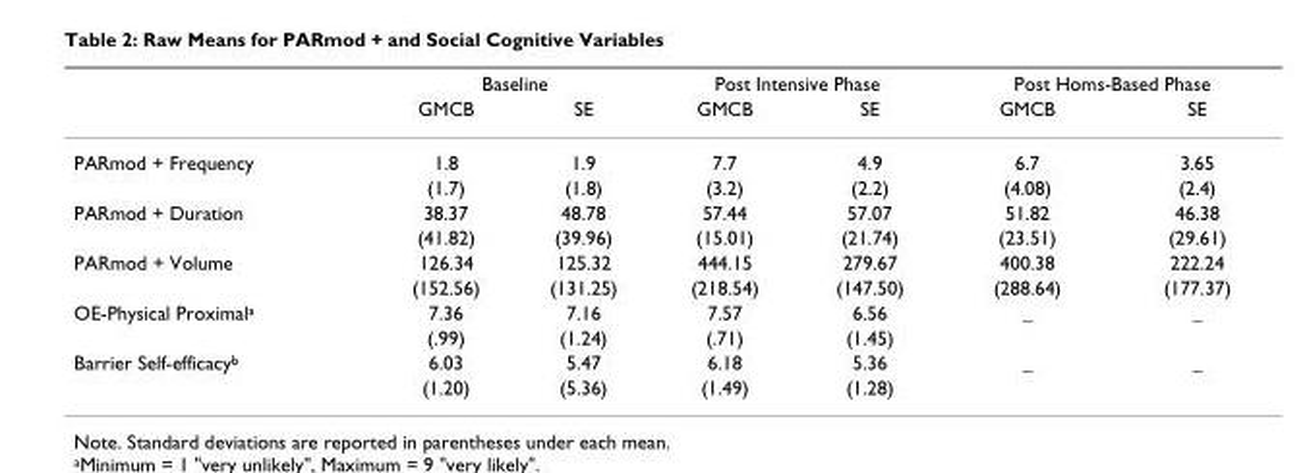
<table><thead><tr><td rowspan="2"></td><td colspan="2">Baseline</td><td colspan="2">Post Intensive Phase</td><td colspan="2">Post Homs-Based Phase</td></tr><tr><td>GMCB</td><td>SE</td><td>GMCB</td><td>SE</td><td>GMCB</td><td>SE</td></tr></thead><tbody><tr><td rowspan="2">PARmod + Frequency</td><td>1.8</td><td>1.9</td><td>7.7</td><td>4.9</td><td>6.7</td><td>3.65</td></tr><tr><td>(1.7)</td><td>(1.8)</td><td>(3.2)</td><td>(2.2)</td><td>(4.08)</td><td>(2.4)</td></tr><tr><td rowspan="2">PARmod + Duration</td><td>38.37</td><td>48.78</td><td>57.44</td><td>57.07</td><td>51.82</td><td>46.38</td></tr><tr><td>(41.82)</td><td>(39.96)</td><td>(15.01)</td><td>(21.74)</td><td>(23.51)</td><td>(29.61)</td></tr><tr><td rowspan="2">PARmod + Volume</td><td>126.34</td><td>125.32</td><td>444.15</td><td>279.67</td><td>400.38</td><td>222.24</td></tr><tr><td>(152.56)</td><td>(131.25)</td><td>(218.54)</td><td>(147.50)</td><td>(288.64)</td><td>(177.37)</td></tr><tr><td rowspan="2">OE-Physical Proximal<sup>a</sup></td><td>7.36</td><td>7.16</td><td>7.57</td><td>6.56</td><td>_</td><td>_</td></tr><tr><td>(.99)</td><td>(1.24)</td><td>(.71)</td><td>(1.45)</td><td></td><td></td></tr><tr><td rowspan="2">Barrier Self-efficacy<sup>b</sup></td><td>6.03</td><td>5.47</td><td>6.18</td><td>5.36</td><td>_</td><td>_</td></tr><tr><td>(1.20)</td><td>(5.36)</td><td>(1.49)</td><td>(1.28)</td><td></td><td></td></tr></tbody></table>